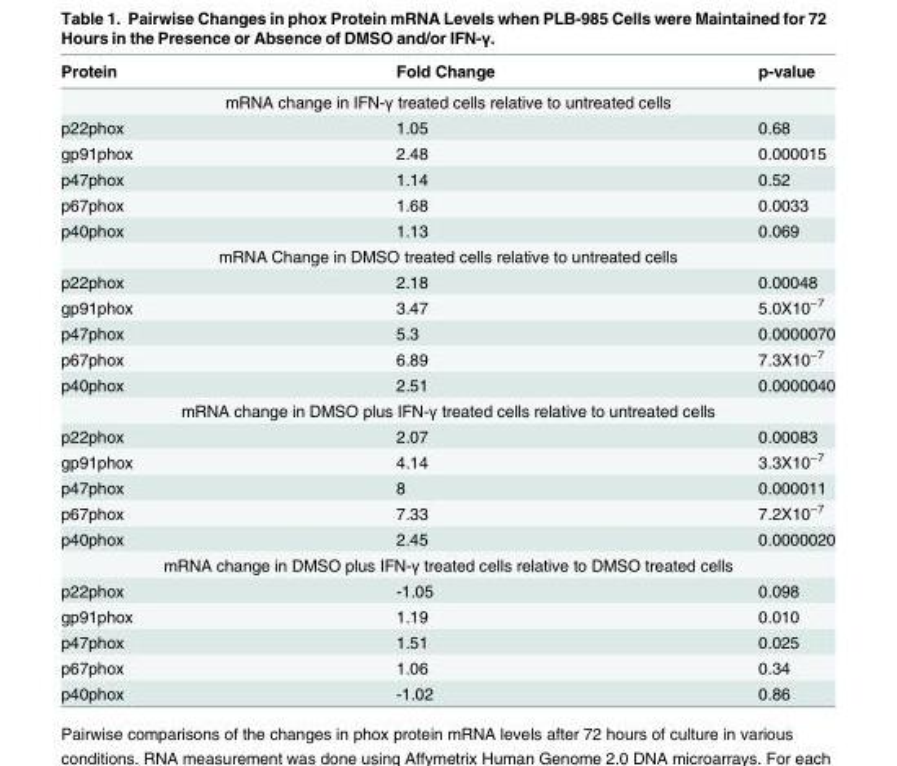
<table><thead><tr><td>Protein</td><td>Fold Change</td><td>p-value</td></tr></thead><tbody><tr><td colspan="3">mRNA change in IFN-γ treated cells relative to untreated cells</td></tr><tr><td>p22phox</td><td>1.05</td><td>0.68</td></tr><tr><td>gp91phox</td><td>2.48</td><td>0.000015</td></tr><tr><td>p47phox</td><td>1.14</td><td>0.52</td></tr><tr><td>p67phox</td><td>1.68</td><td>0.0033</td></tr><tr><td>p40phox</td><td>1.13</td><td>0.069</td></tr><tr><td colspan="3">mRNA Change in DMSO treated cells relative to untreated cells</td></tr><tr><td>p22phox</td><td>2.18</td><td>0.00048</td></tr><tr><td>gp91phox</td><td>3.47</td><td>5.0X10<sup>−7</sup></td></tr><tr><td>p47phox</td><td>5.3</td><td>0.0000070</td></tr><tr><td>p67phox</td><td>6.89</td><td>7.3X10<sup>−7</sup></td></tr><tr><td>p40phox</td><td>2.51</td><td>0.0000040</td></tr><tr><td colspan="3">mRNA change in DMSO plus IFN-γ treated cells relative to untreated cells</td></tr><tr><td>p22phox</td><td>2.07</td><td>0.00083</td></tr><tr><td>gp91phox</td><td>4.14</td><td>3.3X10<sup>−7</sup></td></tr><tr><td>p47phox</td><td>8</td><td>0.000011</td></tr><tr><td>p67phox</td><td>7.33</td><td>7.2X10<sup>−7</sup></td></tr><tr><td>p40phox</td><td>2.45</td><td>0.0000020</td></tr><tr><td colspan="3">mRNA change in DMSO plus IFN-γ treated cells relative to DMSO treated cells</td></tr><tr><td>p22phox</td><td>-1.05</td><td>0.098</td></tr><tr><td>gp91phox</td><td>1.19</td><td>0.010</td></tr><tr><td>p47phox</td><td>1.51</td><td>0.025</td></tr><tr><td>p67phox</td><td>1.06</td><td>0.34</td></tr><tr><td>p40phox</td><td>-1.02</td><td>0.86</td></tr></tbody></table>